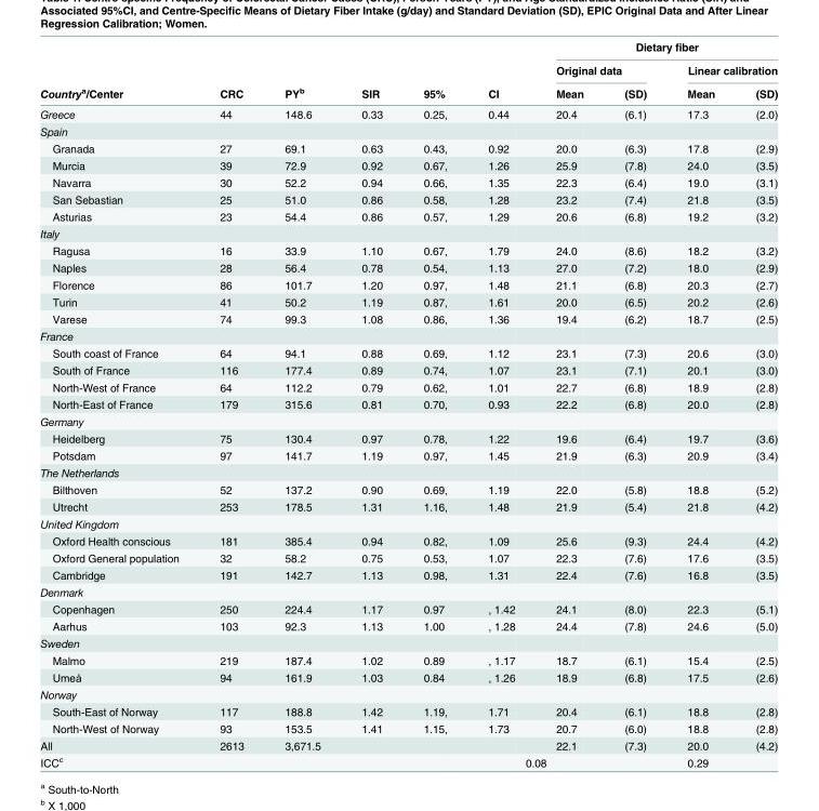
<table><thead><tr><td rowspan="3">Country<sup>a</sup>/Center</td><td rowspan="3">CRC</td><td rowspan="3">PY<sup>b</sup></td><td rowspan="3">SIR</td><td rowspan="3">95%</td><td rowspan="3">CI</td><td colspan="4">Dietary fiber</td></tr><tr><td colspan="2">Original data</td><td colspan="2">Linear calibration</td></tr><tr><td>Mean</td><td>(SD)</td><td>Mean</td><td>(SD)</td></tr></thead><tbody><tr><td>Greece</td><td>44</td><td>148.6</td><td>0.33</td><td>0.25,</td><td>0.44</td><td>20.4</td><td>(6.1)</td><td>17.3</td><td>(2.0)</td></tr><tr><td colspan="10">Spain</td></tr><tr><td>Granada</td><td>27</td><td>69.1</td><td>0.63</td><td>0.43,</td><td>0.92</td><td>20.0</td><td>(6.3)</td><td>17.8</td><td>(2.9)</td></tr><tr><td>Murcia</td><td>39</td><td>72.9</td><td>0.92</td><td>0.67,</td><td>1.26</td><td>25.9</td><td>(7.8)</td><td>24.0</td><td>(3.5)</td></tr><tr><td>Navarra</td><td>30</td><td>52.2</td><td>0.94</td><td>0.66,</td><td>1.35</td><td>22.3</td><td>(6.4)</td><td>19.0</td><td>(3.1)</td></tr><tr><td>San Sebastian</td><td>25</td><td>51.0</td><td>0.86</td><td>0.58,</td><td>1.28</td><td>23.2</td><td>(7.4)</td><td>21.8</td><td>(3.5)</td></tr><tr><td>Asturias</td><td>23</td><td>54.4</td><td>0.86</td><td>0.57,</td><td>1.29</td><td>20.6</td><td>(6.8)</td><td>19.2</td><td>(3.2)</td></tr><tr><td colspan="10">Italy</td></tr><tr><td>Ragusa</td><td>16</td><td>33.9</td><td>1.10</td><td>0.67,</td><td>1.79</td><td>24.0</td><td>(8.6)</td><td>18.2</td><td>(3.2)</td></tr><tr><td>Naples</td><td>28</td><td>56.4</td><td>0.78</td><td>0.54,</td><td>1.13</td><td>27.0</td><td>(7.2)</td><td>18.0</td><td>(2.9)</td></tr><tr><td>Florence</td><td>86</td><td>101.7</td><td>1.20</td><td>0.97,</td><td>1.48</td><td>21.1</td><td>(6.8)</td><td>20.3</td><td>(2.7)</td></tr><tr><td>Turin</td><td>41</td><td>50.2</td><td>1.19</td><td>0.87,</td><td>1.61</td><td>20.0</td><td>(6.5)</td><td>20.2</td><td>(2.6)</td></tr><tr><td>Varese</td><td>74</td><td>99.3</td><td>1.08</td><td>0.86,</td><td>1.36</td><td>19.4</td><td>(6.2)</td><td>18.7</td><td>(2.5)</td></tr><tr><td colspan="10">France</td></tr><tr><td>South coast of France</td><td>64</td><td>94.1</td><td>0.88</td><td>0.69,</td><td>1.12</td><td>23.1</td><td>(7.3)</td><td>20.6</td><td>(3.0)</td></tr><tr><td>South of France</td><td>116</td><td>177.4</td><td>0.89</td><td>0.74,</td><td>1.07</td><td>23.1</td><td>(7.1)</td><td>20.1</td><td>(3.0)</td></tr><tr><td>North-West of France</td><td>64</td><td>112.2</td><td>0.79</td><td>0.62,</td><td>1.01</td><td>22.7</td><td>(6.8)</td><td>18.9</td><td>(2.8)</td></tr><tr><td>North-East of France</td><td>179</td><td>315.6</td><td>0.81</td><td>0.70,</td><td>0.93</td><td>22.2</td><td>(6.8)</td><td>20.0</td><td>(2.8)</td></tr><tr><td colspan="10">Germany</td></tr><tr><td>Heidelberg</td><td>75</td><td>130.4</td><td>0.97</td><td>0.78,</td><td>1.22</td><td>19.6</td><td>(6.4)</td><td>19.7</td><td>(3.6)</td></tr><tr><td>Potsdam</td><td>97</td><td>141.7</td><td>1.19</td><td>0.97,</td><td>1.45</td><td>21.9</td><td>(6.3)</td><td>20.9</td><td>(3.4)</td></tr><tr><td colspan="10">The Netherlands</td></tr><tr><td>Bilthoven</td><td>52</td><td>137.2</td><td>0.90</td><td>0.69,</td><td>1.19</td><td>22.0</td><td>(5.8)</td><td>18.8</td><td>(5.2)</td></tr><tr><td>Utrecht</td><td>253</td><td>178.5</td><td>1.31</td><td>1.16,</td><td>1.48</td><td>21.9</td><td>(5.4)</td><td>21.8</td><td>(4.2)</td></tr><tr><td colspan="10">United Kingdom</td></tr><tr><td>Oxford Health conscious</td><td>181</td><td>385.4</td><td>0.94</td><td>0.82,</td><td>1.09</td><td>25.6</td><td>(9.3)</td><td>24.4</td><td>(4.2)</td></tr><tr><td>Oxford General population</td><td>32</td><td>58.2</td><td>0.75</td><td>0.53,</td><td>1.07</td><td>22.3</td><td>(7.6)</td><td>17.6</td><td>(3.5)</td></tr><tr><td>Cambridge</td><td>191</td><td>142.7</td><td>1.13</td><td>0.98,</td><td>1.31</td><td>22.4</td><td>(7.6)</td><td>16.8</td><td>(3.5)</td></tr><tr><td colspan="10">Denmark</td></tr><tr><td>Copenhagen</td><td>250</td><td>224.4</td><td>1.17</td><td>0.97</td><td>, 1.42</td><td>24.1</td><td>(8.0)</td><td>22.3</td><td>(5.1)</td></tr><tr><td>Aarhus</td><td>103</td><td>92.3</td><td>1.13</td><td>1.00</td><td>, 1.28</td><td>24.4</td><td>(7.8)</td><td>24.6</td><td>(5.0)</td></tr><tr><td colspan="10">Sweden</td></tr><tr><td>Malmo</td><td>219</td><td>187.4</td><td>1.02</td><td>0.89</td><td>, 1.17</td><td>18.7</td><td>(6.1)</td><td>15.4</td><td>(2.5)</td></tr><tr><td>Umeå</td><td>94</td><td>161.9</td><td>1.03</td><td>0.84</td><td>, 1.26</td><td>18.9</td><td>(6.8)</td><td>17.5</td><td>(2.6)</td></tr><tr><td colspan="10">Norway</td></tr><tr><td>South-East of Norway</td><td>117</td><td>188.8</td><td>1.42</td><td>1.19,</td><td>1.71</td><td>20.4</td><td>(6.1)</td><td>18.8</td><td>(2.8)</td></tr><tr><td>North-West of Norway</td><td>93</td><td>153.5</td><td>1.41</td><td>1.15,</td><td>1.73</td><td>20.7</td><td>(6.0)</td><td>18.8</td><td>(2.8)</td></tr><tr><td>All</td><td>2613</td><td>3,671.5</td><td></td><td></td><td></td><td>22.1</td><td>(7.3)</td><td>20.0</td><td>(4.2)</td></tr><tr><td>ICC<sup>c</sup></td><td></td><td></td><td></td><td></td><td colspan="2">0.08</td><td></td><td>0.29</td><td></td></tr></tbody></table>